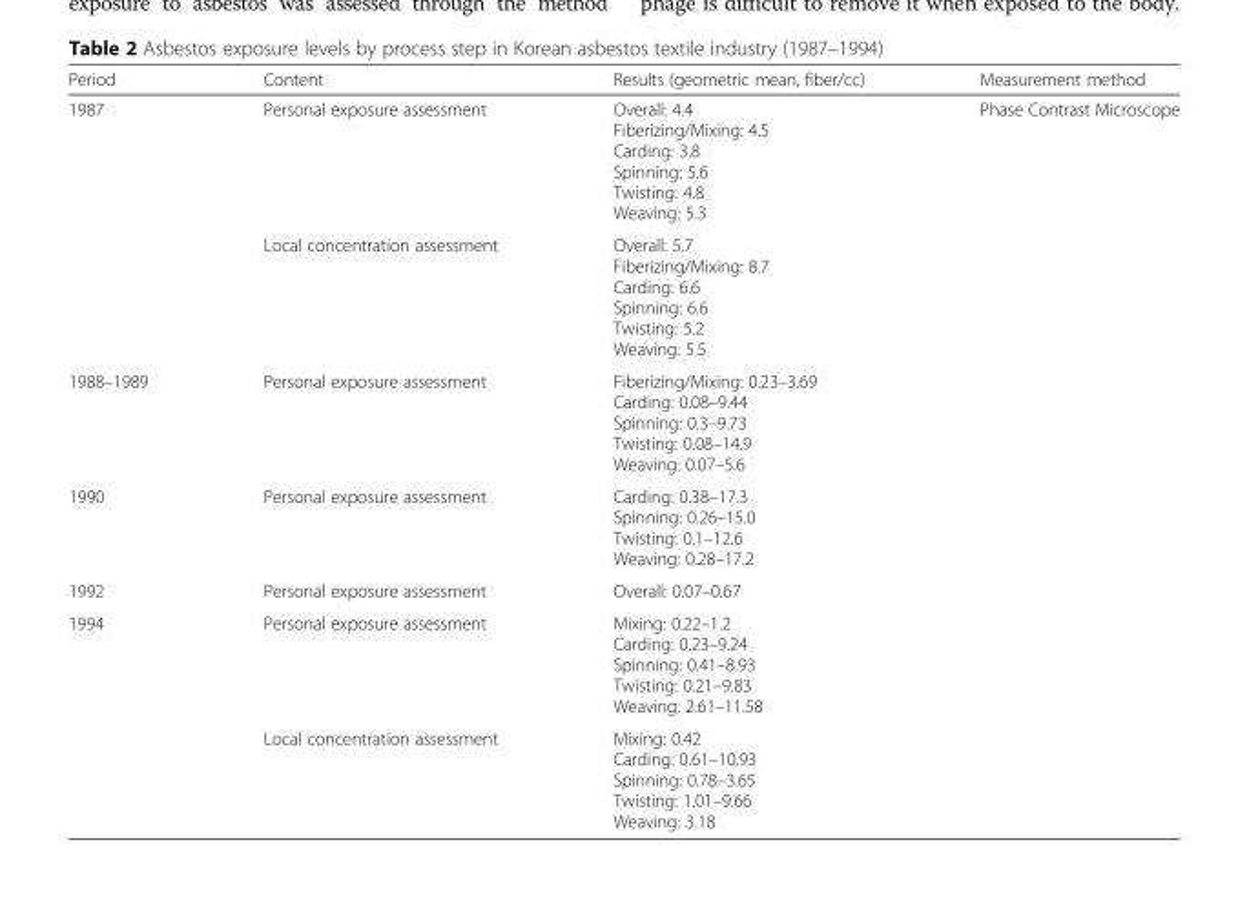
<table><thead><tr><td>Period</td><td>Content</td><td>Results (geometric mean, fiber/cc)</td><td>Measurement method</td></tr></thead><tbody><tr><td rowspan="2">1987</td><td>Personal exposure assessment</td><td>Overall: 4.4 Fiberizing/Mixing: 4.5 Carding: 3.8 Spinning: 5.6 Twisting: 4.8 Weaving: 5.3</td><td rowspan="7">Phase Contrast Microscope</td></tr><tr><td>Local concentration assessment</td><td>Overall: 5.7 Fiberizing/Mixing: 8.7 Carding: 6.6 Spinning: 6.6 Twisting: 5.2 Weaving: 5.5</td></tr><tr><td>1988–1989</td><td>Personal exposure assessment</td><td>Fiberizing/Mixing: 0.23–3.69 Carding: 0.08–9.44 Spinning: 0.3–9.73 Twisting: 0.08–14.9 Weaving: 0.07–5.6</td></tr><tr><td>1990</td><td>Personal exposure assessment</td><td>Carding: 0.38–17.3 Spinning: 0.26–15.0 Twisting: 0.1–12.6 Weaving: 0.28–17.2</td></tr><tr><td>1992</td><td>Personal exposure assessment</td><td>Overall: 0.07–0.67</td></tr><tr><td rowspan="2">1994</td><td>Personal exposure assessment</td><td>Mixing: 0.22–1.2 Carding: 0.23–9.24 Spinning: 0.41–8.93 Twisting: 0.21–9.83 Weaving: 2.61–11.58</td></tr><tr><td>Local concentration assessment</td><td>Mixing: 0.42 Carding: 0.61–10.93 Spinning: 0.78–3.65 Twisting: 1.01–9.66 Weaving: 3.18</td></tr></tbody></table>